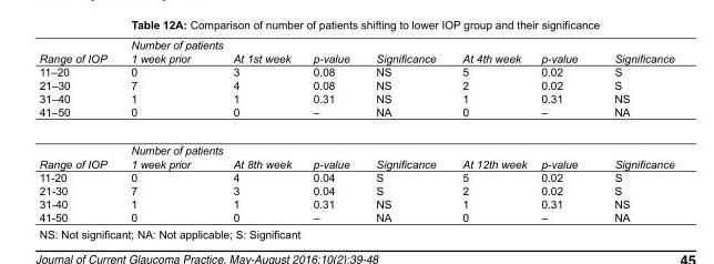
<table><tbody><tr><td>Range of IOP</td><td>Number of patients 1 week prior</td><td>At 1st week</td><td>p-value</td><td>Significance</td><td>At 4th week</td><td>p-value</td><td>Significance</td></tr><tr><td>11–20</td><td>0</td><td>3</td><td>0.08</td><td>NS</td><td>5</td><td>0.02</td><td>S</td></tr><tr><td>21–30</td><td>7</td><td>4</td><td>0.08</td><td>NS</td><td>2</td><td>0.02</td><td>S</td></tr><tr><td>31–40</td><td>1</td><td>1</td><td>0.31</td><td>NS</td><td>1</td><td>0.31</td><td>NS</td></tr><tr><td>41–50</td><td>0</td><td>0</td><td>–</td><td>NA</td><td>0</td><td>–</td><td>NA</td></tr><tr><td>Range of IOP</td><td>Number of patients 1 week prior</td><td>At 8th week</td><td>p-value</td><td>Significance</td><td>At 12th week</td><td>p-value</td><td>Significance</td></tr><tr><td>11-20</td><td>0</td><td>4</td><td>0.04</td><td>S</td><td>5</td><td>0.02</td><td>S</td></tr><tr><td>21-30</td><td>7</td><td>3</td><td>0.04</td><td>S</td><td>2</td><td>0.02</td><td>S</td></tr><tr><td>31-40</td><td>1</td><td>1</td><td>0.31</td><td>NS</td><td>1</td><td>0.31</td><td>NS</td></tr><tr><td>41-50</td><td>0</td><td>0</td><td>–</td><td>NA</td><td>0</td><td>–</td><td>NA</td></tr></tbody></table>